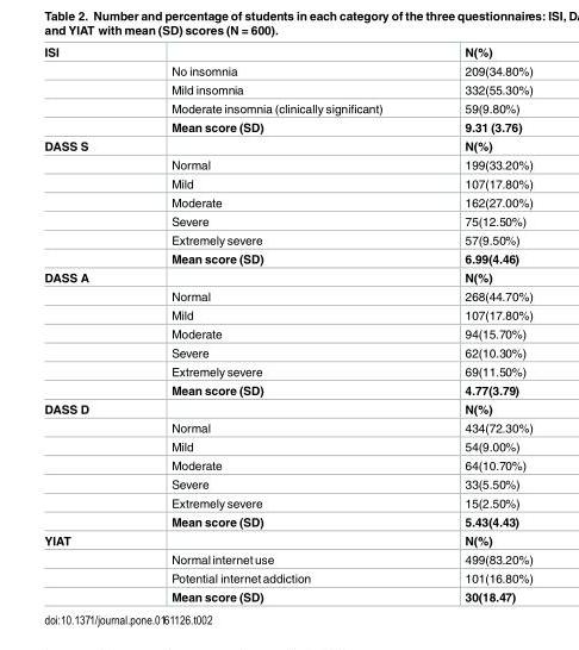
<table><tbody><tr><td rowspan="5">ISI</td><td></td><td>N(%)</td></tr><tr><td>No insomnia</td><td>209(34.80%)</td></tr><tr><td>Mild insomnia</td><td>332(55.30%)</td></tr><tr><td>Moderate insomnia (clinically significant)</td><td>59(9.80%)</td></tr><tr><td>Mean score (SD)</td><td>9.31 (3.76)</td></tr><tr><td rowspan="7">DASS S</td><td></td><td>N(%)</td></tr><tr><td>Normal</td><td>199(33.20%)</td></tr><tr><td>Mild</td><td>107(17.80%)</td></tr><tr><td>Moderate</td><td>162(27.00%)</td></tr><tr><td>Severe</td><td>75(12.50%)</td></tr><tr><td>Extremely severe</td><td>57(9.50%)</td></tr><tr><td>Mean score (SD)</td><td>6.99(4.46)</td></tr><tr><td rowspan="7">DASS A</td><td></td><td>N(%)</td></tr><tr><td>Normal</td><td>268(44.70%)</td></tr><tr><td>Mild</td><td>107(17.80%)</td></tr><tr><td>Moderate</td><td>94(15.70%)</td></tr><tr><td>Severe</td><td>62(10.30%)</td></tr><tr><td>Extremely severe</td><td>69(11.50%)</td></tr><tr><td>Mean score (SD)</td><td>4.77(3.79)</td></tr><tr><td rowspan="7">DASS D</td><td></td><td>N(%)</td></tr><tr><td>Normal</td><td>434(72.30%)</td></tr><tr><td>Mild</td><td>54(9.00%)</td></tr><tr><td>Moderate</td><td>64(10.70%)</td></tr><tr><td>Severe</td><td>33(5.50%)</td></tr><tr><td>Extremely severe</td><td>15(2.50%)</td></tr><tr><td>Mean score (SD)</td><td>5.43(4.43)</td></tr><tr><td rowspan="4">YIAT</td><td></td><td>N(%)</td></tr><tr><td>Normal internetuse</td><td>499(83.20%)</td></tr><tr><td>Potential internetaddiction</td><td>101(16.80%)</td></tr><tr><td>Mean score (SD)</td><td>30(18.47)</td></tr></tbody></table>